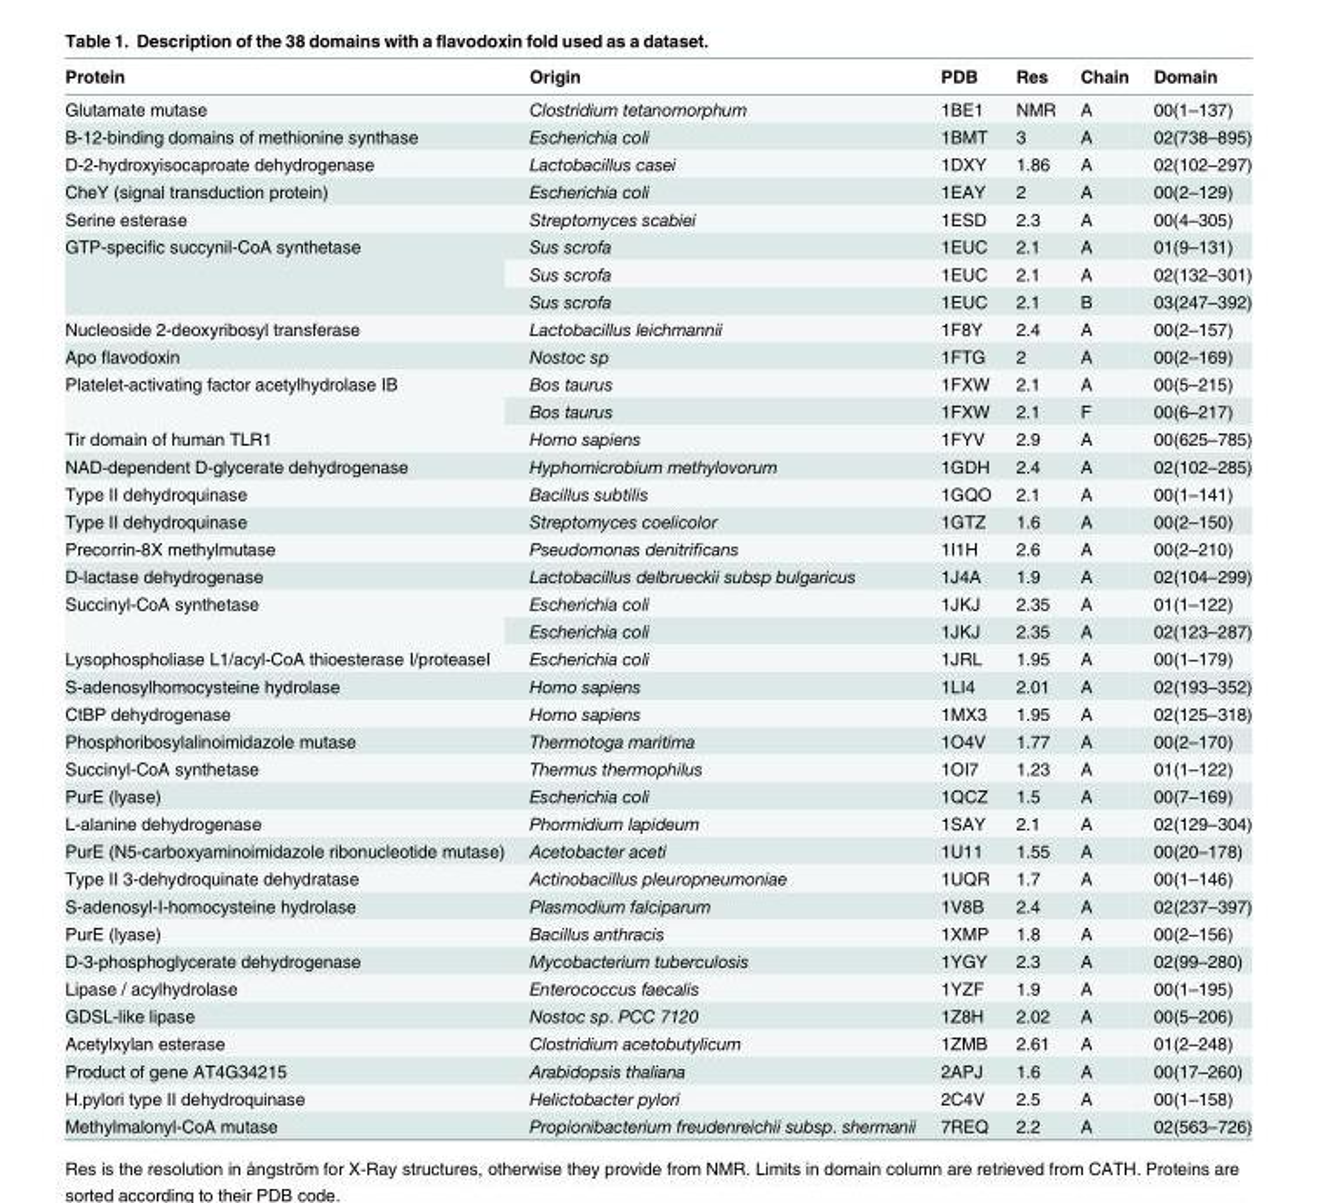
<table><thead><tr><td>Protein</td><td>Origin</td><td>PDB</td><td>Res</td><td>Chain</td><td>Domain</td></tr></thead><tbody><tr><td>Glutamate mutase</td><td>Clostridium tetanomorphum</td><td>1BE1</td><td>NMR</td><td>A</td><td>00(1–137)</td></tr><tr><td>B-12-binding domains of methionine synthase</td><td>Escherichia coli</td><td>1BMT</td><td>3</td><td>A</td><td>02(738–895)</td></tr><tr><td>D-2-hydroxyisocaproate dehydrogenase</td><td>Lactobacillus casei</td><td>1DXY</td><td>1.86</td><td>A</td><td>02(102–297)</td></tr><tr><td>CheY (signal transduction protein)</td><td>Escherichia coli</td><td>1EAY</td><td>2</td><td>A</td><td>00(2–129)</td></tr><tr><td>Serine esterase</td><td>Streptomyces scabiei</td><td>1ESD</td><td>2.3</td><td>A</td><td>00(4–305)</td></tr><tr><td rowspan="3">GTP-specific succynil-CoA synthetase</td><td>Sus scrofa</td><td>1EUC</td><td>2.1</td><td>A</td><td>01(9–131)</td></tr><tr><td>Sus scrofa</td><td>1EUC</td><td>2.1</td><td>A</td><td>02(132–301)</td></tr><tr><td>Sus scrofa</td><td>1EUC</td><td>2.1</td><td>B</td><td>03(247–392)</td></tr><tr><td>Nucleoside 2-deoxyribosyl transferase</td><td>Lactobacillus leichmannii</td><td>1F8Y</td><td>2.4</td><td>A</td><td>00(2–157)</td></tr><tr><td>Apo flavodoxin</td><td>Nostoc sp</td><td>1FTG</td><td>2</td><td>A</td><td>00(2–169)</td></tr><tr><td rowspan="2">Platelet-activating factor acetylhydrolase IB</td><td>Bos taurus</td><td>1FXW</td><td>2.1</td><td>A</td><td>00(5–215)</td></tr><tr><td>Bos taurus</td><td>1FXW</td><td>2.1</td><td>F</td><td>00(6–217)</td></tr><tr><td>Tir domain of human TLR1</td><td>Homo sapiens</td><td>1FYV</td><td>2.9</td><td>A</td><td>00(625–785)</td></tr><tr><td>NAD-dependent D-glycerate dehydrogenase</td><td>Hyphomicrobium methylovorum</td><td>1GDH</td><td>2.4</td><td>A</td><td>02(102–285)</td></tr><tr><td>Type II dehydroquinase</td><td>Bacillus subtilis</td><td>1GQO</td><td>2.1</td><td>A</td><td>00(1–141)</td></tr><tr><td>Type II dehydroquinase</td><td>Streptomyces coelicolor</td><td>1GTZ</td><td>1.6</td><td>A</td><td>00(2–150)</td></tr><tr><td>Precorrin-8X methylmutase</td><td>Pseudomonas denitrificans</td><td>1I1H</td><td>2.6</td><td>A</td><td>00(2–210)</td></tr><tr><td>D-lactase dehydrogenase</td><td>Lactobacillus delbrueckii subsp bulgaricus</td><td>1J4A</td><td>1.9</td><td>A</td><td>02(104–299)</td></tr><tr><td rowspan="2">Succinyl-CoA synthetase</td><td>Escherichia coli</td><td>1JKJ</td><td>2.35</td><td>A</td><td>01(1–122)</td></tr><tr><td>Escherichia coli</td><td>1JKJ</td><td>2.35</td><td>A</td><td>02(123–287)</td></tr><tr><td>Lysophospholiase L1/acyl-CoA thioesterase I/proteaseI</td><td>Escherichia coli</td><td>1JRL</td><td>1.95</td><td>A</td><td>00(1–179)</td></tr><tr><td>S-adenosylhomocysteine hydrolase</td><td>Homo sapiens</td><td>1LI4</td><td>2.01</td><td>A</td><td>02(193–352)</td></tr><tr><td>CtBP dehydrogenase</td><td>Homo sapiens</td><td>1MX3</td><td>1.95</td><td>A</td><td>02(125–318)</td></tr><tr><td>Phosphoribosylalinoimidazole mutase</td><td>Thermotoga maritima</td><td>1O4V</td><td>1.77</td><td>A</td><td>00(2–170)</td></tr><tr><td>Succinyl-CoA synthetase</td><td>Thermus thermophilus</td><td>1OI7</td><td>1.23</td><td>A</td><td>01(1–122)</td></tr><tr><td>PurE (lyase)</td><td>Escherichia coli</td><td>1QCZ</td><td>1.5</td><td>A</td><td>00(7–169)</td></tr><tr><td>L-alanine dehydrogenase</td><td>Phormidium lapideum</td><td>1SAY</td><td>2.1</td><td>A</td><td>02(129–304)</td></tr><tr><td>PurE (N5-carboxyaminoimidazole ribonucleotide mutase)</td><td>Acetobacter aceti</td><td>1U11</td><td>1.55</td><td>A</td><td>00(20–178)</td></tr><tr><td>Type II 3-dehydroquinate dehydratase</td><td>Actinobacillus pleuropneumoniae</td><td>1UQR</td><td>1.7</td><td>A</td><td>00(1–146)</td></tr><tr><td>S-adenosyl-I-homocysteine hydrolase</td><td>Plasmodium falciparum</td><td>1V8B</td><td>2.4</td><td>A</td><td>02(237–397)</td></tr><tr><td>PurE (lyase)</td><td>Bacillus anthracis</td><td>1XMP</td><td>1.8</td><td>A</td><td>00(2–156)</td></tr><tr><td>D-3-phosphoglycerate dehydrogenase</td><td>Mycobacterium tuberculosis</td><td>1YGY</td><td>2.3</td><td>A</td><td>02(99–280)</td></tr><tr><td>Lipase / acylhydrolase</td><td>Enterococcus faecalis</td><td>1YZF</td><td>1.9</td><td>A</td><td>00(1–195)</td></tr><tr><td>GDSL-like lipase</td><td>Nostoc sp. PCC 7120</td><td>1Z8H</td><td>2.02</td><td>A</td><td>00(5–206)</td></tr><tr><td>Acetylxylan esterase</td><td>Clostridium acetobutylicum</td><td>1ZMB</td><td>2.61</td><td>A</td><td>01(2–248)</td></tr><tr><td>Product of gene AT4G34215</td><td>Arabidopsis thaliana</td><td>2APJ</td><td>1.6</td><td>A</td><td>00(17–260)</td></tr><tr><td>H.pylori type II dehydroquinase</td><td>Helictobacter pylori</td><td>2C4V</td><td>2.5</td><td>A</td><td>00(1–158)</td></tr><tr><td>Methylmalonyl-CoA mutase</td><td>Propionibacterium freudenreichii subsp. shermanii</td><td>7REQ</td><td>2.2</td><td>A</td><td>02(563–726)</td></tr></tbody></table>